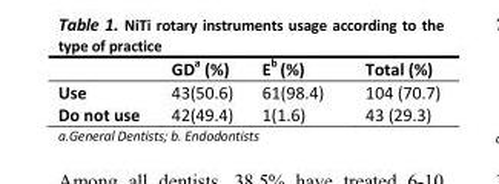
<table><thead><tr><td></td><td>GDa (%)</td><td>Eb (%)</td><td>Total (%)</td></tr></thead><tbody><tr><td>Use</td><td>43(50.6)</td><td>61(98.4)</td><td>104 (70.7)</td></tr><tr><td>Do not use</td><td>42(49.4)</td><td>1(1.6)</td><td>43 (29.3)</td></tr></tbody></table>